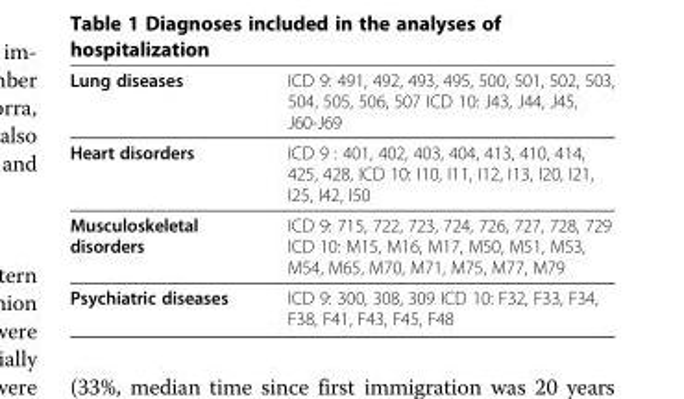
<table><thead><tr><td>Lung diseases</td><td>ICD 9: 491, 492, 493, 495, 500, 501, 502, 503, 504, 505, 506, 507 ICD 10: J43, J44, J45, J60-J69</td></tr></thead><tbody><tr><td>Heart disorders</td><td>ICD 9 : 401, 402, 403, 404, 413, 410, 414, 425, 428, ICD 10: I10, I11, I12, I13, I20, I21, I25, I42, I50</td></tr><tr><td>Musculoskeletal disorders</td><td>ICD 9: 715, 722, 723, 724, 726, 727, 728, 729 ICD 10: M15, M16, M17, M50, M51, M53, M54, M65, M70, M71, M75, M77, M79</td></tr><tr><td>Psychiatric diseases</td><td>ICD 9: 300, 308, 309 ICD 10: F32, F33, F34, F38, F41, F43, F45, F48</td></tr></tbody></table>